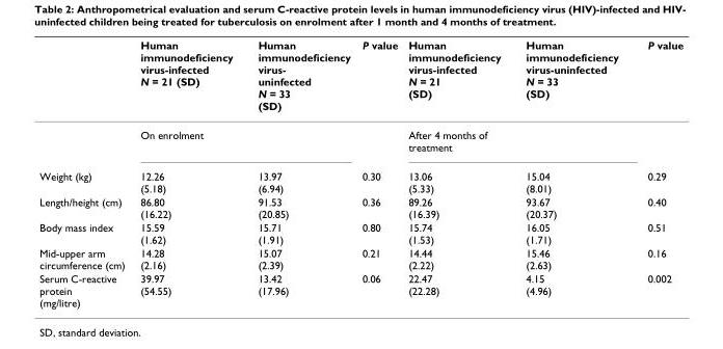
<table><thead><tr><td></td><td>Human immunodeficiency virus-infected N = 21 (SD)</td><td>Human immunodeficiency virus- uninfected N = 33 (SD)</td><td>P value</td><td>Human immunodeficiency virus-infected N = 21 (SD)</td><td>Human immunodeficiency virus-uninfected N = 33 (SD)</td><td>P value</td></tr></thead><tbody><tr><td></td><td>On enrolment</td><td></td><td></td><td>After 4 months of treatment</td><td></td><td></td></tr><tr><td>Weight (kg)</td><td>12.26 (5.18)</td><td>13.97 (6.94)</td><td>0.30</td><td>13.06 (5.33)</td><td>15.04 (8.01)</td><td>0.29</td></tr><tr><td>Length/height (cm)</td><td>86.80 (16.22)</td><td>91.53 (20.85)</td><td>0.36</td><td>89.26 (16.39)</td><td>93.67 (20.37)</td><td>0.40</td></tr><tr><td>Body mass index</td><td>15.59 (1.62)</td><td>15.71 (1.91)</td><td>0.80</td><td>15.74 (1.53)</td><td>16.05 (1.71)</td><td>0.51</td></tr><tr><td>Mid-upper arm circumference (cm)</td><td>14.28 (2.16)</td><td>15.07 (2.39)</td><td>0.21</td><td>14.44 (2.22)</td><td>15.46 (2.63)</td><td>0.16</td></tr><tr><td>Serum C-reactive protein (mg/litre)</td><td>39.97 (54.55)</td><td>13.42 (17.96)</td><td>0.06</td><td>22.47 (22.28)</td><td>4.15 (4.96)</td><td>0.002</td></tr></tbody></table>